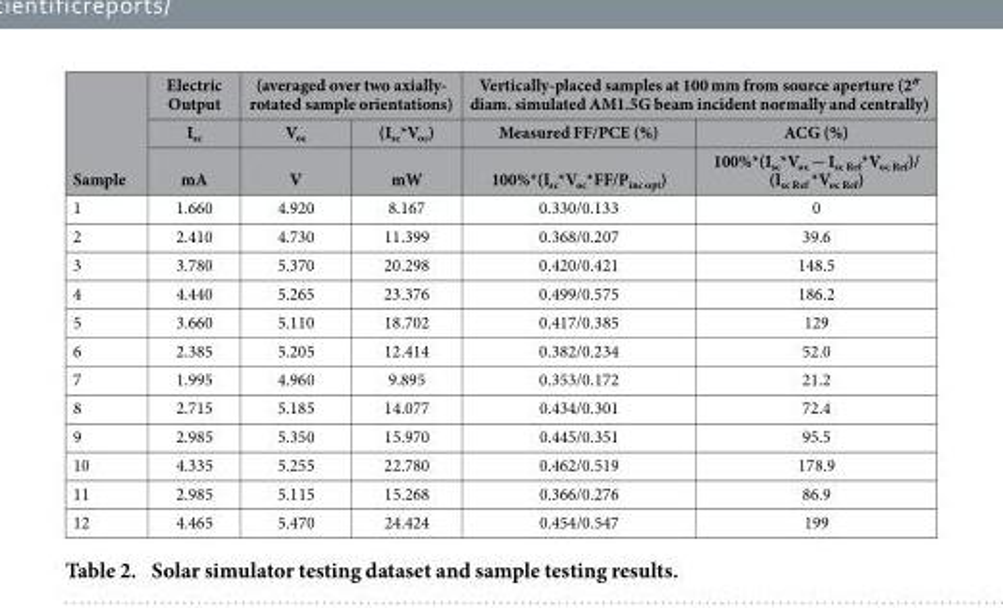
<table><thead><tr><td rowspan="3">Sample</td><td rowspan="3">Electric Output I<sub>sc</sub> mA</td><td colspan="2">(averaged over two axially- rotated sample orientations)</td><td colspan="2">Vertically-placed samples at 100 mm from source aperture (2″ diam. simulated AM1.5G beam incident normally and centrally)</td></tr><tr><td rowspan="2">V<sub>oc</sub> V</td><td rowspan="2">(I<sub>sc</sub>*V<sub>oc</sub>) mW</td><td rowspan="2">Measured FF/PCE (%) 100%*(I<sub>sc</sub>*V<sub>oc</sub>*FF/P<sub>inc opt</sub>)</td><td rowspan="2">ACG (%) 100%*(I<sub>sc</sub>*V<sub>oc</sub> − I<sub>sc Ref</sub>*V<sub>oc Ref</sub>)/ (I<sub>sc Ref</sub> *V<sub>oc Ref</sub>)</td></tr><tr></tr></thead><tbody><tr><td>1</td><td>1.660</td><td>4.920</td><td>8.167</td><td>0.330/0.133</td><td>0</td></tr><tr><td>2</td><td>2.410</td><td>4.730</td><td>11.399</td><td>0.368/0.207</td><td>39.6</td></tr><tr><td>3</td><td>3.780</td><td>5.370</td><td>20.298</td><td>0.420/0.421</td><td>148.5</td></tr><tr><td>4</td><td>4.440</td><td>5.265</td><td>23.376</td><td>0.499/0.575</td><td>186.2</td></tr><tr><td>5</td><td>3.660</td><td>5.110</td><td>18.702</td><td>0.417/0.385</td><td>129</td></tr><tr><td>6</td><td>2.385</td><td>5.205</td><td>12.414</td><td>0.382/0.234</td><td>52.0</td></tr><tr><td>7</td><td>1.995</td><td>4.960</td><td>9.895</td><td>0.353/0.172</td><td>21.2</td></tr><tr><td>8</td><td>2.715</td><td>5.185</td><td>14.077</td><td>0.434/0.301</td><td>72.4</td></tr><tr><td>9</td><td>2.985</td><td>5.350</td><td>15.970</td><td>0.445/0.351</td><td>95.5</td></tr><tr><td>10</td><td>4.335</td><td>5.255</td><td>22.780</td><td>0.462/0.519</td><td>178.9</td></tr><tr><td>11</td><td>2.985</td><td>5.115</td><td>15.268</td><td>0.366/0.276</td><td>86.9</td></tr><tr><td>12</td><td>4.465</td><td>5.470</td><td>24.424</td><td>0.454/0.547</td><td>199</td></tr></tbody></table>